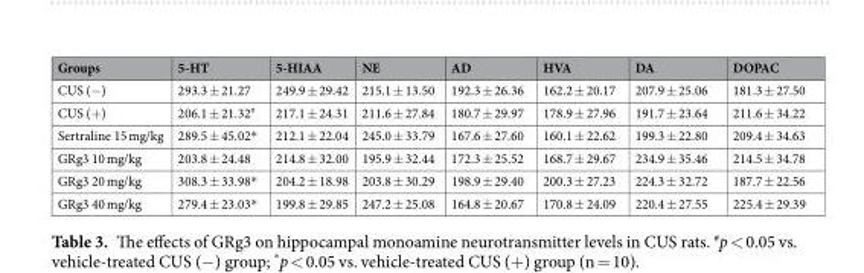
<table><thead><tr><td>Groups</td><td>5-HT</td><td>5-HIAA</td><td>NE</td><td>AD</td><td>HVA</td><td>DA</td><td>DOPAC</td></tr></thead><tbody><tr><td>CUS (−)</td><td>293.3 ± 21.27</td><td>249.9 ± 29.42</td><td>215.1 ± 13.50</td><td>192.3 ± 26.36</td><td>162.2 ± 20.17</td><td>207.9 ± 25.06</td><td>181.3 ± 27.50</td></tr><tr><td>CUS (+)</td><td>206.1 ± 21.32<sup>#</sup></td><td>217.1 ± 24.31</td><td>211.6 ± 27.84</td><td>180.7 ± 29.97</td><td>178.9 ± 27.96</td><td>191.7 ± 23.64</td><td>211.6 ± 34.22</td></tr><tr><td>Sertraline 15 mg/kg</td><td>289.5 ± 45.02*</td><td>212.1 ± 22.04</td><td>245.0 ± 33.79</td><td>167.6 ± 27.60</td><td>160.1 ± 22.62</td><td>199.3 ± 22.80</td><td>209.4 ± 34.63</td></tr><tr><td>GRg3 10 mg/kg</td><td>203.8 ± 24.48</td><td>214.8 ± 32.00</td><td>195.9 ± 32.44</td><td>172.3 ± 25.52</td><td>168.7 ± 29.67</td><td>234.9 ± 35.46</td><td>214.5 ± 34.78</td></tr><tr><td>GRg3 20 mg/kg</td><td>308.3 ± 33.98*</td><td>204.2 ± 18.98</td><td>203.8 ± 30.29</td><td>198.9 ± 29.40</td><td>200.3 ± 27.23</td><td>224.3 ± 32.72</td><td>187.7 ± 22.56</td></tr><tr><td>GRg3 40 mg/kg</td><td>279.4 ± 23.03*</td><td>199.8 ± 29.85</td><td>247.2 ± 25.08</td><td>164.8 ± 20.67</td><td>170.8 ± 24.09</td><td>220.4 ± 27.55</td><td>225.4 ± 29.39</td></tr></tbody></table>